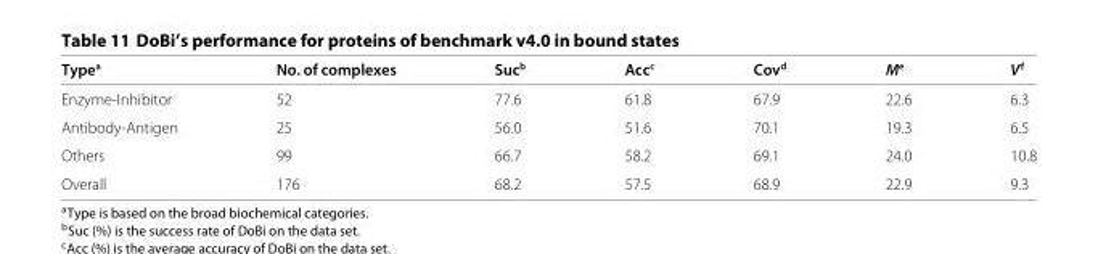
<table><thead><tr><td>Type<sup>a</sup></td><td>No. of complexes</td><td>Suc<sup>b</sup></td><td>Acc<sup>c</sup></td><td>Cov<sup>d</sup></td><td>M<sup>e</sup></td><td>V<sup>f</sup></td></tr></thead><tbody><tr><td>Enzyme-Inhibitor</td><td>52</td><td>77.6</td><td>61.8</td><td>67.9</td><td>22.6</td><td>6.3</td></tr><tr><td>Antibody-Antigen</td><td>25</td><td>56.0</td><td>51.6</td><td>70.1</td><td>19.3</td><td>6.5</td></tr><tr><td>Others</td><td>99</td><td>66.7</td><td>58.2</td><td>69.1</td><td>24.0</td><td>10.8</td></tr><tr><td>Overall</td><td>176</td><td>68.2</td><td>57.5</td><td>68.9</td><td>22.9</td><td>9.3</td></tr></tbody></table>